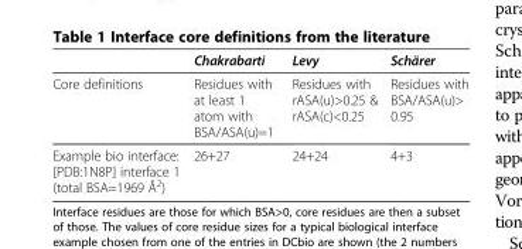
<table><thead><tr><td></td><td>Chakrabarti</td><td>Levy</td><td>Schärer</td></tr></thead><tbody><tr><td>Core definitions</td><td>Residues with at least 1 atom with BSA/ASA(u)=1</td><td>Residues with rASA(u)&gt;0.25 &amp; rASA(c)&lt;0.25</td><td>Residues with BSA/ASA(u)&gt; 0.95</td></tr><tr><td>Example bio interface: [PDB:1N8P] interface 1 (total BSA=1969 Å<sup>2</sup>)</td><td>26+27</td><td>24+24</td><td>4+3</td></tr></tbody></table>